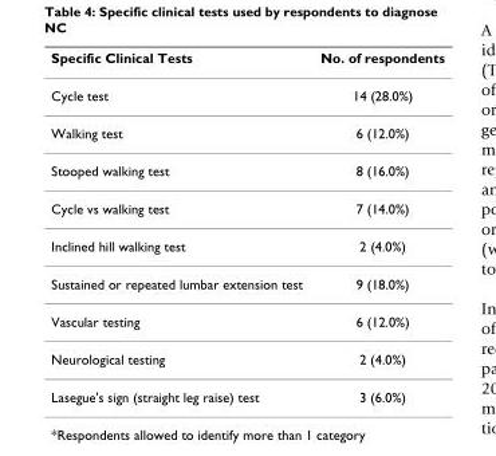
<table><thead><tr><td>Specific Clinical Tests</td><td>No. of respondents</td></tr></thead><tbody><tr><td>Cycle test</td><td>14 (28.0%)</td></tr><tr><td>Walking test</td><td>6 (12.0%)</td></tr><tr><td>Stooped walking test</td><td>8 (16.0%)</td></tr><tr><td>Cycle vs walking test</td><td>7 (14.0%)</td></tr><tr><td>Inclined hill walking test</td><td>2 (4.0%)</td></tr><tr><td>Sustained or repeated lumbar extension test</td><td>9 (18.0%)</td></tr><tr><td>Vascular testing</td><td>6 (12.0%)</td></tr><tr><td>Neurological testing</td><td>2 (4.0%)</td></tr><tr><td>Lasegue&#x27;s sign (straight leg raise) test</td><td>3 (6.0%)</td></tr></tbody></table>